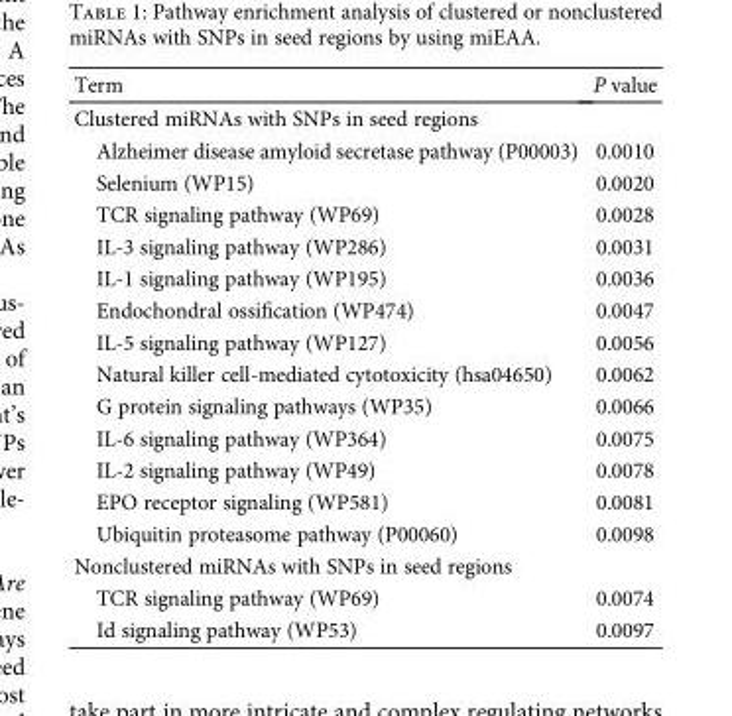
<table><thead><tr><td>Term</td><td>P value</td></tr></thead><tbody><tr><td colspan="2">Clustered miRNAs with SNPs in seed regions</td></tr><tr><td>Alzheimer disease amyloid secretase pathway (P00003)</td><td>0.0010</td></tr><tr><td>Selenium (WP15)</td><td>0.0020</td></tr><tr><td>TCR signaling pathway (WP69)</td><td>0.0028</td></tr><tr><td>IL-3 signaling pathway (WP286)</td><td>0.0031</td></tr><tr><td>IL-1 signaling pathway (WP195)</td><td>0.0036</td></tr><tr><td>Endochondral ossification (WP474)</td><td>0.0047</td></tr><tr><td>IL-5 signaling pathway (WP127)</td><td>0.0056</td></tr><tr><td>Natural killer cell-mediated cytotoxicity (hsa04650)</td><td>0.0062</td></tr><tr><td>G protein signaling pathways (WP35)</td><td>0.0066</td></tr><tr><td>IL-6 signaling pathway (WP364)</td><td>0.0075</td></tr><tr><td>IL-2 signaling pathway (WP49)</td><td>0.0078</td></tr><tr><td>EPO receptor signaling (WP581)</td><td>0.0081</td></tr><tr><td>Ubiquitin proteasome pathway (P00060)</td><td>0.0098</td></tr><tr><td colspan="2">Nonclustered miRNAs with SNPs in seed regions</td></tr><tr><td>TCR signaling pathway (WP69)</td><td>0.0074</td></tr><tr><td>Id signaling pathway (WP53)</td><td>0.0097</td></tr></tbody></table>